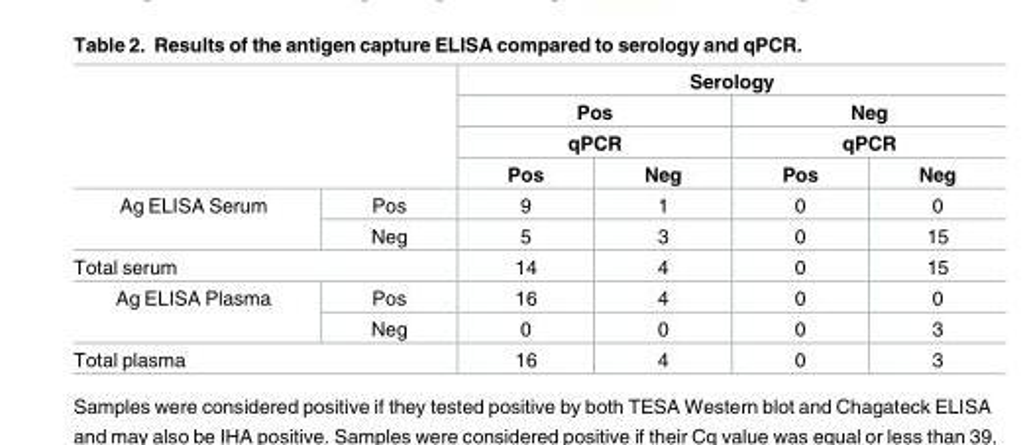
<table><thead><tr><td rowspan="4"></td><td rowspan="4"></td><td colspan="4">Serology</td></tr><tr><td rowspan="2" colspan="2">Pos qPCR</td><td rowspan="2" colspan="2">Neg qPCR</td></tr><tr></tr><tr><td>Pos</td><td>Neg</td><td>Pos</td><td>Neg</td></tr></thead><tbody><tr><td rowspan="2">Ag ELISA Serum</td><td>Pos</td><td>9</td><td>1</td><td>0</td><td>0</td></tr><tr><td>Neg</td><td>5</td><td>3</td><td>0</td><td>15</td></tr><tr><td colspan="2">Total serum</td><td>14</td><td>4</td><td>0</td><td>15</td></tr><tr><td rowspan="2">Ag ELISA Plasma</td><td>Pos</td><td>16</td><td>4</td><td>0</td><td>0</td></tr><tr><td>Neg</td><td>0</td><td>0</td><td>0</td><td>3</td></tr><tr><td colspan="2">Total plasma</td><td>16</td><td>4</td><td>0</td><td>3</td></tr></tbody></table>